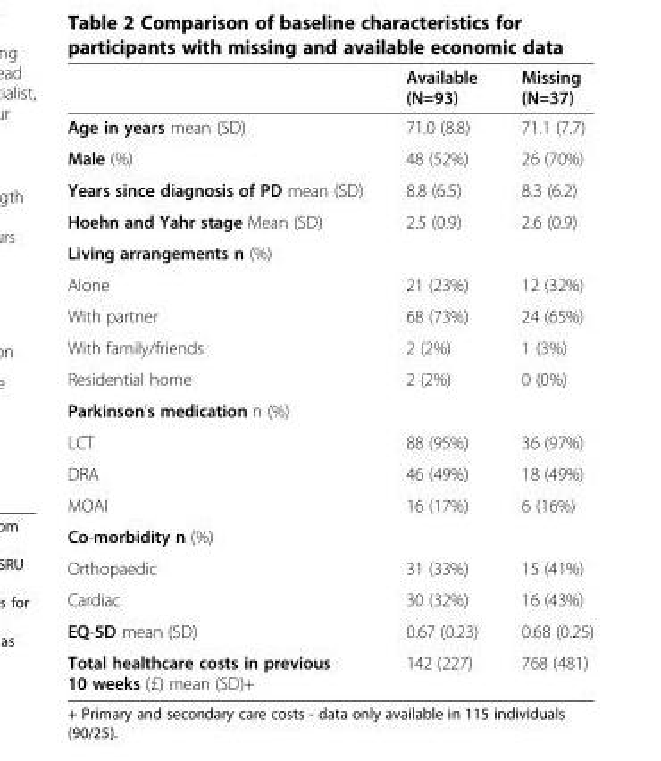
<table><thead><tr><td></td><td>Available (N=93)</td><td>Missing (N=37)</td></tr></thead><tbody><tr><td>Age in years mean (SD)</td><td>71.0 (8.8)</td><td>71.1 (7.7)</td></tr><tr><td>Male (%)</td><td>48 (52%)</td><td>26 (70%)</td></tr><tr><td>Years since diagnosis of PD mean (SD)</td><td>8.8 (6.5)</td><td>8.3 (6.2)</td></tr><tr><td>Hoehn and Yahr stage Mean (SD)</td><td>2.5 (0.9)</td><td>2.6 (0.9)</td></tr><tr><td colspan="3">Living arrangements n (%)</td></tr><tr><td>Alone</td><td>21 (23%)</td><td>12 (32%)</td></tr><tr><td>With partner</td><td>68 (73%)</td><td>24 (65%)</td></tr><tr><td>With family/friends</td><td>2 (2%)</td><td>1 (3%)</td></tr><tr><td>Residential home</td><td>2 (2%)</td><td>0 (0%)</td></tr><tr><td colspan="3">Parkinson’s medication n (%)</td></tr><tr><td>LCT</td><td>88 (95%)</td><td>36 (97%)</td></tr><tr><td>DRA</td><td>46 (49%)</td><td>18 (49%)</td></tr><tr><td>MOAI</td><td>16 (17%)</td><td>6 (16%)</td></tr><tr><td colspan="3">Co-morbidity n (%)</td></tr><tr><td>Orthopaedic</td><td>31 (33%)</td><td>15 (41%)</td></tr><tr><td>Cardiac</td><td>30 (32%)</td><td>16 (43%)</td></tr><tr><td>EQ-5D mean (SD)</td><td>0.67 (0.23)</td><td>0.68 (0.25)</td></tr><tr><td>Total healthcare costs in previous 10 weeks (£) mean (SD)+</td><td>142 (227)</td><td>768 (481)</td></tr></tbody></table>